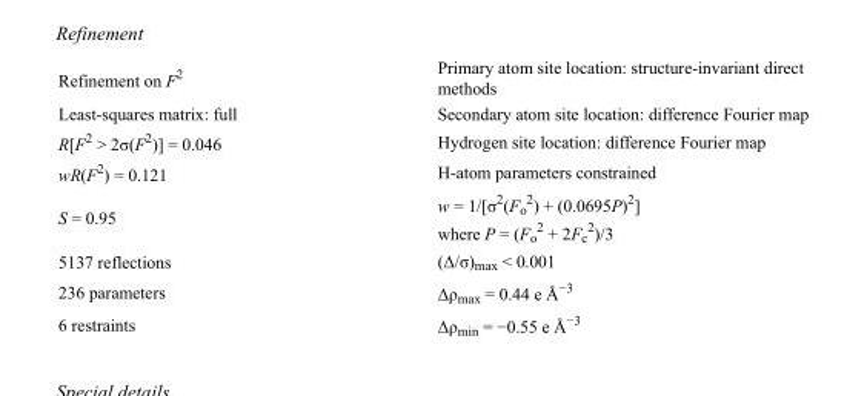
<table><tbody><tr><td>Refinement on F<sup>2</sup></td><td>Primary atom site location: structure-invariant direct methods</td></tr><tr><td>Least-squares matrix: full</td><td>Secondary atom site location: difference Fourier map</td></tr><tr><td>R[F<sup>2</sup> &gt; 2σ(F<sup>2</sup>)] = 0.046</td><td>Hydrogen site location: difference Fourier map</td></tr><tr><td>wR(F<sup>2</sup>) = 0.121</td><td>H-atom parameters constrained</td></tr><tr><td>S = 0.95</td><td>w = 1/[σ<sup>2</sup>(F<sub>o</sub> <sup>2</sup>) + (0.0695P)<sup>2</sup>] where P = (F<sub>o</sub> <sup>2</sup> + 2F<sub>c</sub> <sup>2</sup>)/3</td></tr><tr><td>5137 reflections</td><td>(Δ/σ)<sub>max</sub> &lt; 0.001</td></tr><tr><td>236 parameters</td><td>Δρ<sub>max</sub> = 0.44 e Å<sup>−3</sup></td></tr><tr><td>6 restraints</td><td>Δρ<sub>min</sub> = −0.55 e Å<sup>−3</sup></td></tr></tbody></table>